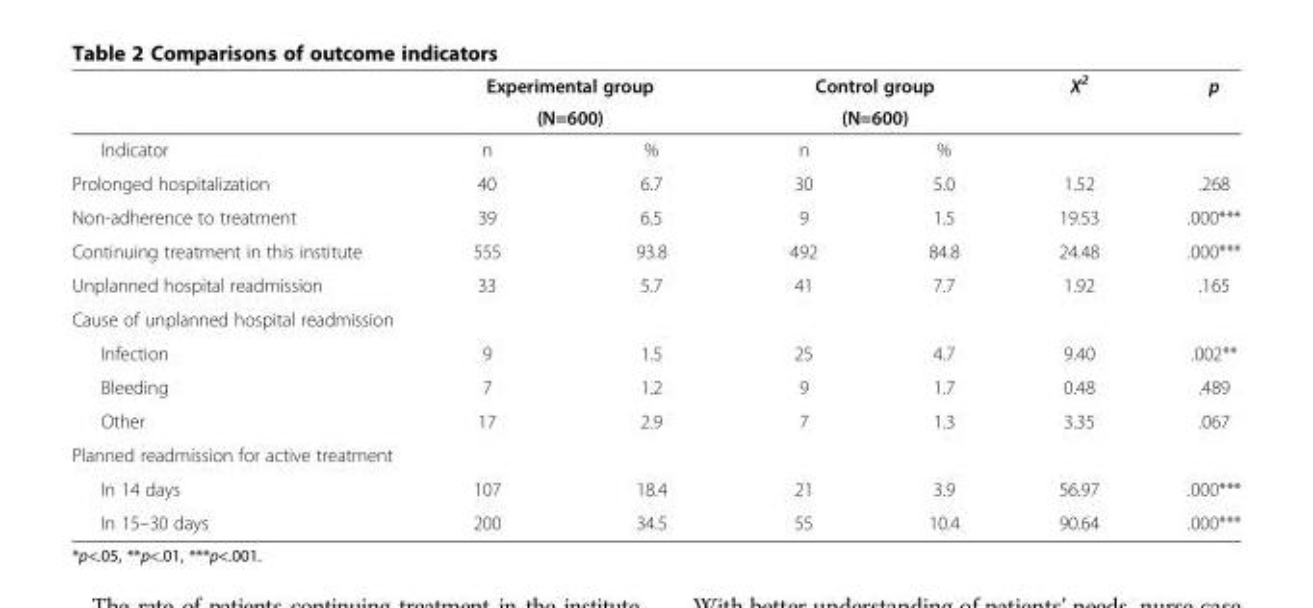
<table><thead><tr><td rowspan="3">Indicator</td><td rowspan="2" colspan="2">Experimental group (N=600)</td><td rowspan="2" colspan="2">Control group (N=600)</td><td rowspan="3">X<sup>2</sup></td><td rowspan="3">p</td></tr><tr></tr><tr><td>n</td><td>%</td><td>n</td><td>%</td></tr></thead><tbody><tr><td>Prolonged hospitalization</td><td>40</td><td>6.7</td><td>30</td><td>5.0</td><td>1.52</td><td>.268</td></tr><tr><td>Non-adherence to treatment</td><td>39</td><td>6.5</td><td>9</td><td>1.5</td><td>19.53</td><td>.000***</td></tr><tr><td>Continuing treatment in this institute</td><td>555</td><td>93.8</td><td>492</td><td>84.8</td><td>24.48</td><td>.000***</td></tr><tr><td>Unplanned hospital readmission</td><td>33</td><td>5.7</td><td>41</td><td>7.7</td><td>1.92</td><td>.165</td></tr><tr><td colspan="7">Cause of unplanned hospital readmission</td></tr><tr><td>Infection</td><td>9</td><td>1.5</td><td>25</td><td>4.7</td><td>9.40</td><td>.002**</td></tr><tr><td>Bleeding</td><td>7</td><td>1.2</td><td>9</td><td>1.7</td><td>0.48</td><td>.489</td></tr><tr><td>Other</td><td>17</td><td>2.9</td><td>7</td><td>1.3</td><td>3.35</td><td>.067</td></tr><tr><td colspan="7">Planned readmission for active treatment</td></tr><tr><td>In 14 days</td><td>107</td><td>18.4</td><td>21</td><td>3.9</td><td>56.97</td><td>.000***</td></tr><tr><td>In 15–30 days</td><td>200</td><td>34.5</td><td>55</td><td>10.4</td><td>90.64</td><td>.000***</td></tr></tbody></table>